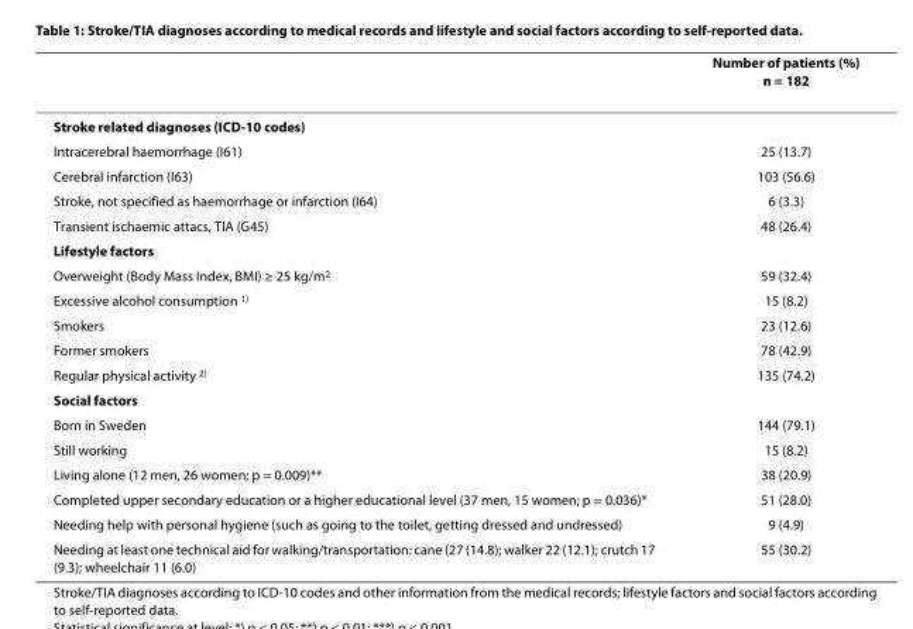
<table><thead><tr><td></td><td>Number of patients (%) n = 182</td></tr></thead><tbody><tr><td colspan="2">Stroke related diagnoses (ICD-10 codes)</td></tr><tr><td>Intracerebral haemorrhage (I61)</td><td>25 (13.7)</td></tr><tr><td>Cerebral infarction (I63)</td><td>103 (56.6)</td></tr><tr><td>Stroke, not specified as haemorrhage or infarction (I64)</td><td>6 (3.3)</td></tr><tr><td>Transient ischaemic attacs, TIA (G45)</td><td>48 (26.4)</td></tr><tr><td colspan="2">Lifestyle factors</td></tr><tr><td>Overweight (Body Mass Index, BMI) ≥ 25 kg/m<sup>2</sup></td><td>59 (32.4)</td></tr><tr><td>Excessive alcohol consumption <sup>1)</sup></td><td>15 (8.2)</td></tr><tr><td>Smokers</td><td>23 (12.6)</td></tr><tr><td>Former smokers</td><td>78 (42.9)</td></tr><tr><td>Regular physical activity <sup>2)</sup></td><td>135 (74.2)</td></tr><tr><td colspan="2">Social factors</td></tr><tr><td>Born in Sweden</td><td>144 (79.1)</td></tr><tr><td>Still working</td><td>15 (8.2)</td></tr><tr><td>Living alone (12 men, 26 women; p = 0.009)**</td><td>38 (20.9)</td></tr><tr><td>Completed upper secondary education or a higher educational level (37 men, 15 women; p = 0.036)*</td><td>51 (28.0)</td></tr><tr><td>Needing help with personal hygiene (such as going to the toilet, getting dressed and undressed)</td><td>9 (4.9)</td></tr><tr><td>Needing at least one technical aid for walking/transportation: cane (27 (14.8); walker 22 (12.1); crutch 17 (9.3); wheelchair 11 (6.0)</td><td>55 (30.2)</td></tr></tbody></table>